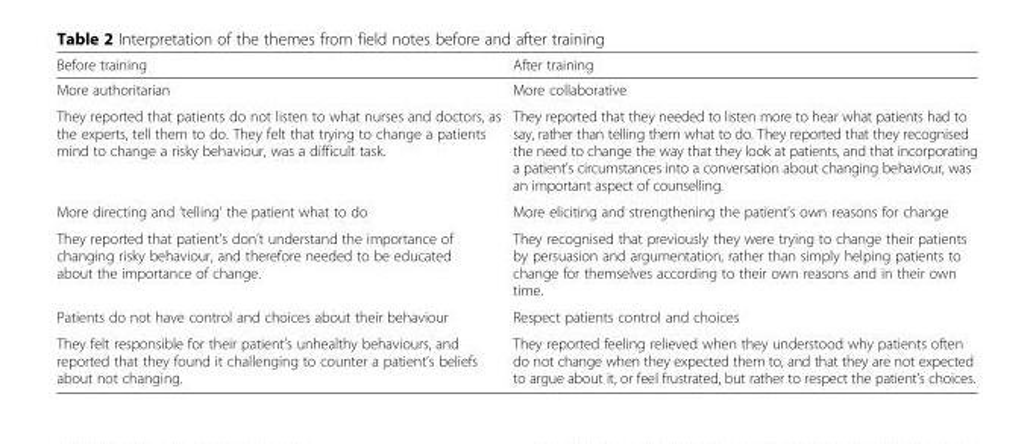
<table><thead><tr><td>Before training</td><td>After training</td></tr></thead><tbody><tr><td>More authoritarian</td><td>More collaborative</td></tr><tr><td>They reported that patients do not listen to what nurses and doctors, as the experts, tell them to do. They felt that trying to change a patients mind to change a risky behaviour, was a difficult task.</td><td>They reported that they needed to listen more to hear what patients had to say, rather than telling them what to do. They reported that they recognised the need to change the way that they look at patients, and that incorporating a patient’s circumstances into a conversation about changing behaviour, was an important aspect of counselling.</td></tr><tr><td>More directing and ‘telling’ the patient what to do</td><td>More eliciting and strengthening the patient’s own reasons for change</td></tr><tr><td>They reported that patient’s don’t understand the importance of changing risky behaviour, and therefore needed to be educated about the importance of change.</td><td>They recognised that previously they were trying to change their patients by persuasion and argumentation, rather than simply helping patients to change for themselves according to their own reasons and in their own time.</td></tr><tr><td>Patients do not have control and choices about their behaviour</td><td>Respect patients control and choices</td></tr><tr><td>They felt responsible for their patient’s unhealthy behaviours, and reported that they found it challenging to counter a patient’s beliefs about not changing.</td><td>They reported feeling relieved when they understood why patients often do not change when they expected them to, and that they are not expected to argue about it, or feel frustrated, but rather to respect the patient’s choices.</td></tr></tbody></table>